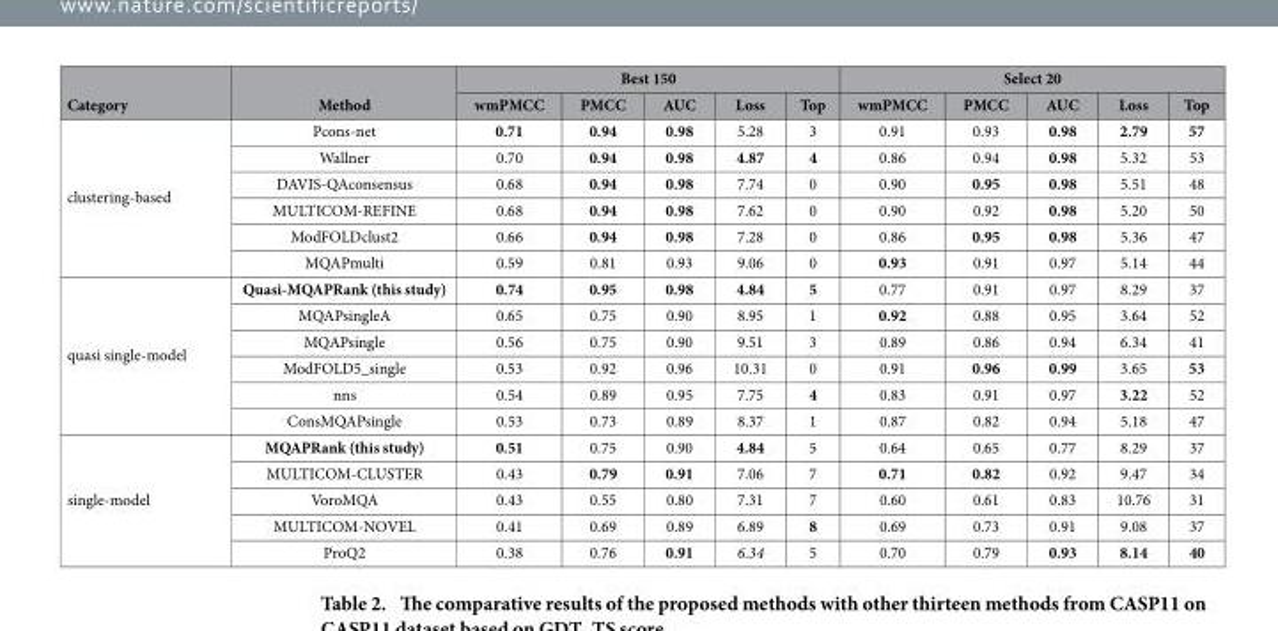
<table><thead><tr><td rowspan="2">Category</td><td rowspan="2">Method</td><td colspan="5">Best 150</td><td colspan="5">Select 20</td></tr><tr><td>wmPMCC</td><td>PMCC</td><td>AUC</td><td>Loss</td><td>Top</td><td>wmPMCC</td><td>PMCC</td><td>AUC</td><td>Loss</td><td>Top</td></tr></thead><tbody><tr><td rowspan="6">clustering-based</td><td>Pcons-net</td><td>0.71</td><td>0.94</td><td>0.98</td><td>5.28</td><td>3</td><td>0.91</td><td>0.93</td><td>0.98</td><td>2.79</td><td>57</td></tr><tr><td>Wallner</td><td>0.70</td><td>0.94</td><td>0.98</td><td>4.87</td><td>4</td><td>0.86</td><td>0.94</td><td>0.98</td><td>5.32</td><td>53</td></tr><tr><td>DAVIS-QAconsensus</td><td>0.68</td><td>0.94</td><td>0.98</td><td>7.74</td><td>0</td><td>0.90</td><td>0.95</td><td>0.98</td><td>5.51</td><td>48</td></tr><tr><td>MULTICOM-REFINE</td><td>0.68</td><td>0.94</td><td>0.98</td><td>7.62</td><td>0</td><td>0.90</td><td>0.92</td><td>0.98</td><td>5.20</td><td>50</td></tr><tr><td>ModFOLDclust2</td><td>0.66</td><td>0.94</td><td>0.98</td><td>7.28</td><td>0</td><td>0.86</td><td>0.95</td><td>0.98</td><td>5.36</td><td>47</td></tr><tr><td>MQAPmulti</td><td>0.59</td><td>0.81</td><td>0.93</td><td>9.06</td><td>0</td><td>0.93</td><td>0.91</td><td>0.97</td><td>5.14</td><td>44</td></tr><tr><td rowspan="6">quasi single-model</td><td>Quasi-MQAPRank (this study)</td><td>0.74</td><td>0.95</td><td>0.98</td><td>4.84</td><td>5</td><td>0.77</td><td>0.91</td><td>0.97</td><td>8.29</td><td>37</td></tr><tr><td>MQAPsingleA</td><td>0.65</td><td>0.75</td><td>0.90</td><td>8.95</td><td>1</td><td>0.92</td><td>0.88</td><td>0.95</td><td>3.64</td><td>52</td></tr><tr><td>MQAPsingle</td><td>0.56</td><td>0.75</td><td>0.90</td><td>9.51</td><td>3</td><td>0.89</td><td>0.86</td><td>0.94</td><td>6.34</td><td>41</td></tr><tr><td>ModFOLD5_single</td><td>0.53</td><td>0.92</td><td>0.96</td><td>10.31</td><td>0</td><td>0.91</td><td>0.96</td><td>0.99</td><td>3.65</td><td>53</td></tr><tr><td>nns</td><td>0.54</td><td>0.89</td><td>0.95</td><td>7.75</td><td>4</td><td>0.83</td><td>0.91</td><td>0.97</td><td>3.22</td><td>52</td></tr><tr><td>ConsMQAPsingle</td><td>0.53</td><td>0.73</td><td>0.89</td><td>8.37</td><td>1</td><td>0.87</td><td>0.82</td><td>0.94</td><td>5.18</td><td>47</td></tr><tr><td rowspan="5">single-model</td><td>MQAPRank (this study)</td><td>0.51</td><td>0.75</td><td>0.90</td><td>4.84</td><td>5</td><td>0.64</td><td>0.65</td><td>0.77</td><td>8.29</td><td>37</td></tr><tr><td>MULTICOM-CLUSTER</td><td>0.43</td><td>0.79</td><td>0.91</td><td>7.06</td><td>7</td><td>0.71</td><td>0.82</td><td>0.92</td><td>9.47</td><td>34</td></tr><tr><td>VoroMQA</td><td>0.43</td><td>0.55</td><td>0.80</td><td>7.31</td><td>7</td><td>0.60</td><td>0.61</td><td>0.83</td><td>10.76</td><td>31</td></tr><tr><td>MULTICOM-NOVEL</td><td>0.41</td><td>0.69</td><td>0.89</td><td>6.89</td><td>8</td><td>0.69</td><td>0.73</td><td>0.91</td><td>9.08</td><td>37</td></tr><tr><td>ProQ2</td><td>0.38</td><td>0.76</td><td>0.91</td><td>6.34</td><td>5</td><td>0.70</td><td>0.79</td><td>0.93</td><td>8.14</td><td>40</td></tr></tbody></table>